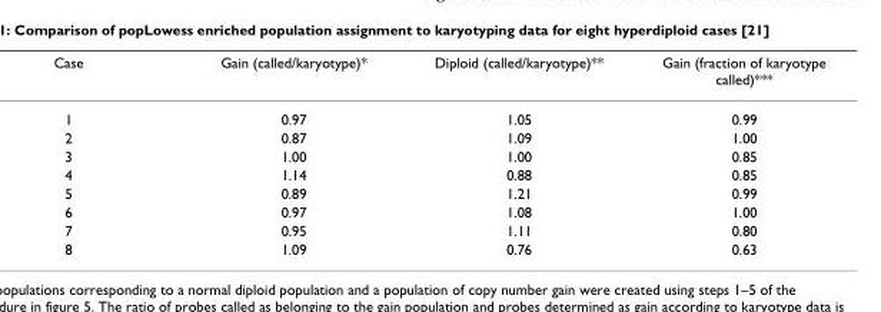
<table><thead><tr><td>Case</td><td>Gain (called/karyotype)*</td><td>Diploid (called/karyotype)**</td><td>Gain (fraction of karyotype called)***</td></tr></thead><tbody><tr><td>1</td><td>0.97</td><td>1.05</td><td>0.99</td></tr><tr><td>2</td><td>0.87</td><td>1.09</td><td>1.00</td></tr><tr><td>3</td><td>1.00</td><td>1.00</td><td>0.85</td></tr><tr><td>4</td><td>1.14</td><td>0.88</td><td>0.85</td></tr><tr><td>5</td><td>0.89</td><td>1.21</td><td>0.99</td></tr><tr><td>6</td><td>0.97</td><td>1.08</td><td>1.00</td></tr><tr><td>7</td><td>0.95</td><td>1.11</td><td>0.80</td></tr><tr><td>8</td><td>1.09</td><td>0.76</td><td>0.63</td></tr></tbody></table>